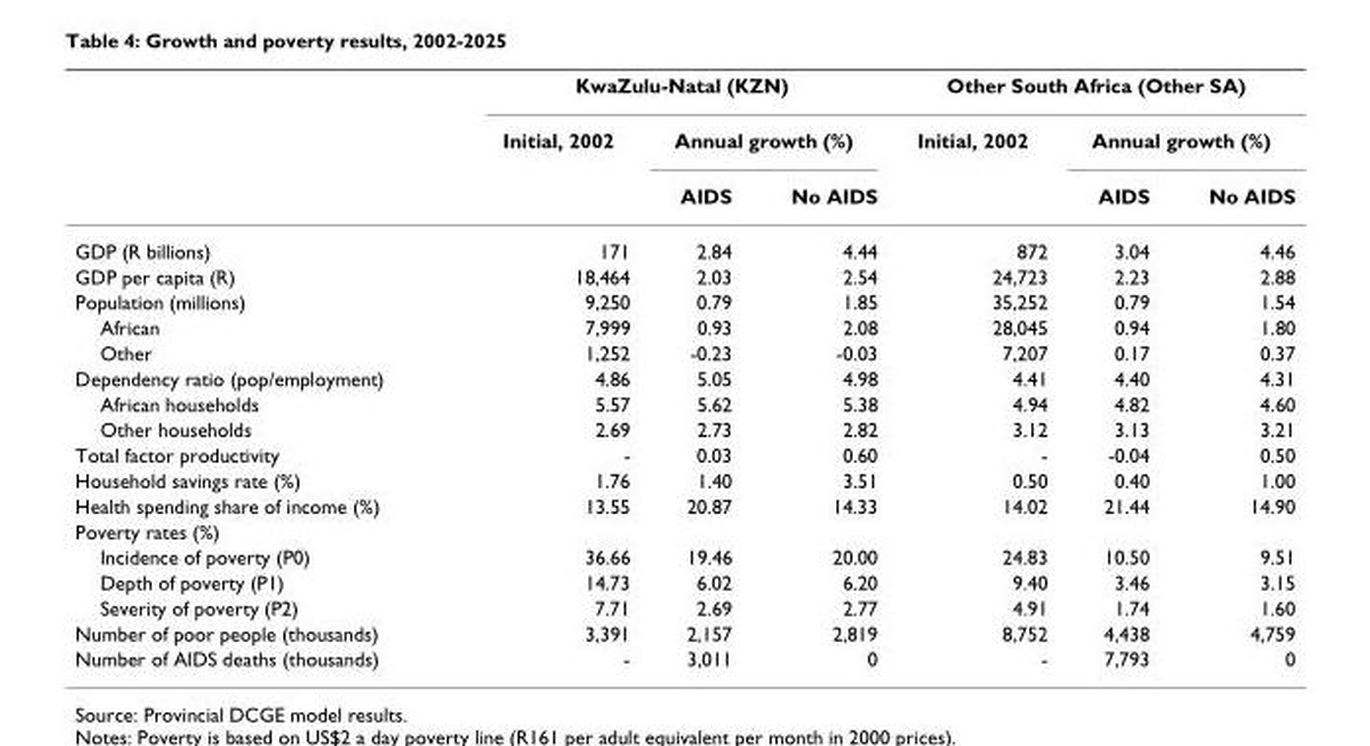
<table><thead><tr><td rowspan="3"></td><td colspan="3">KwaZulu-Natal (KZN)</td><td colspan="3">Other South Africa (Other SA)</td></tr><tr><td rowspan="2">Initial, 2002</td><td colspan="2">Annual growth (%)</td><td rowspan="2">Initial, 2002</td><td colspan="2">Annual growth (%)</td></tr><tr><td>AIDS</td><td>No AIDS</td><td>AIDS</td><td>No AIDS</td></tr></thead><tbody><tr><td>GDP (R billions)</td><td>171</td><td>2.84</td><td>4.44</td><td>872</td><td>3.04</td><td>4.46</td></tr><tr><td>GDP per capita (R)</td><td>18,464</td><td>2.03</td><td>2.54</td><td>24,723</td><td>2.23</td><td>2.88</td></tr><tr><td>Population (millions)</td><td>9,250</td><td>0.79</td><td>1.85</td><td>35,252</td><td>0.79</td><td>1.54</td></tr><tr><td>African</td><td>7,999</td><td>0.93</td><td>2.08</td><td>28,045</td><td>0.94</td><td>1.80</td></tr><tr><td>Other</td><td>1,252</td><td>-0.23</td><td>-0.03</td><td>7,207</td><td>0.17</td><td>0.37</td></tr><tr><td>Dependency ratio (pop/employment)</td><td>4.86</td><td>5.05</td><td>4.98</td><td>4.41</td><td>4.40</td><td>4.31</td></tr><tr><td>African households</td><td>5.57</td><td>5.62</td><td>5.38</td><td>4.94</td><td>4.82</td><td>4.60</td></tr><tr><td>Other households</td><td>2.69</td><td>2.73</td><td>2.82</td><td>3.12</td><td>3.13</td><td>3.21</td></tr><tr><td>Total factor productivity</td><td>-</td><td>0.03</td><td>0.60</td><td>-</td><td>-0.04</td><td>0.50</td></tr><tr><td>Household savings rate (%)</td><td>1.76</td><td>1.40</td><td>3.51</td><td>0.50</td><td>0.40</td><td>1.00</td></tr><tr><td>Health spending share of income (%)</td><td>13.55</td><td>20.87</td><td>14.33</td><td>14.02</td><td>21.44</td><td>14.90</td></tr><tr><td colspan="7">Poverty rates (%)</td></tr><tr><td>Incidence of poverty (P0)</td><td>36.66</td><td>19.46</td><td>20.00</td><td>24.83</td><td>10.50</td><td>9.51</td></tr><tr><td>Depth of poverty (P1)</td><td>14.73</td><td>6.02</td><td>6.20</td><td>9.40</td><td>3.46</td><td>3.15</td></tr><tr><td>Severity of poverty (P2)</td><td>7.71</td><td>2.69</td><td>2.77</td><td>4.91</td><td>1.74</td><td>1.60</td></tr><tr><td>Number of poor people (thousands)</td><td>3,391</td><td>2,157</td><td>2,819</td><td>8,752</td><td>4,438</td><td>4,759</td></tr><tr><td>Number of AIDS deaths (thousands)</td><td>-</td><td>3,011</td><td>0</td><td>-</td><td>7,793</td><td>0</td></tr></tbody></table>